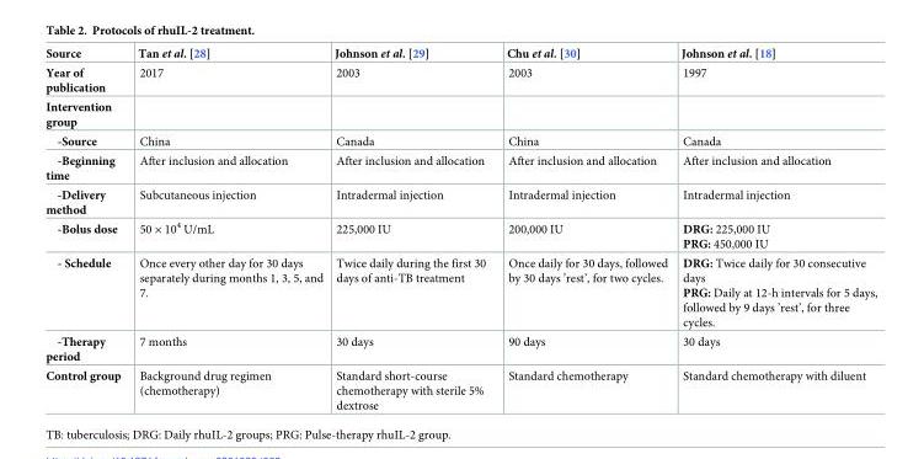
<table><thead><tr><td>Source</td><td>Tan et al. [28]</td><td>Johnson et al. [29]</td><td>Chu et al. [30]</td><td>Johnson et al. [18]</td></tr></thead><tbody><tr><td>Year of publication</td><td>2017</td><td>2003</td><td>2003</td><td>1997</td></tr><tr><td colspan="5">Intervention group</td></tr><tr><td>-Source</td><td>China</td><td>Canada</td><td>China</td><td>Canada</td></tr><tr><td>-Beginning time</td><td>After inclusion and allocation</td><td>After inclusion and allocation</td><td>After inclusion and allocation</td><td>After inclusion and allocation</td></tr><tr><td>-Delivery method</td><td>Subcutaneous injection</td><td>Intradermal injection</td><td>Intradermal injection</td><td>Intradermal injection</td></tr><tr><td>-Bolus dose</td><td>50 × 10<sup>4</sup> U/mL</td><td>225,000 IU</td><td>200,000 IU</td><td>DRG: 225,000 IU PRG: 450,000 IU</td></tr><tr><td>- Schedule</td><td>Once every other day for 30 days separately during months 1, 3, 5, and 7.</td><td>Twice daily during the first 30 days of anti-TB treatment</td><td>Once daily for 30 days, followed by 30 days ’rest’, for two cycles.</td><td>DRG: Twice daily for 30 consecutive days PRG: Daily at 12-h intervals for 5 days, followed by 9 days ’rest’, for three cycles.</td></tr><tr><td>-Therapy period</td><td>7 months</td><td>30 days</td><td>90 days</td><td>30 days</td></tr><tr><td>Control group</td><td>Background drug regimen (chemotherapy)</td><td>Standard short-course chemotherapy with sterile 5% dextrose</td><td>Standard chemotherapy</td><td>Standard chemotherapy with diluent</td></tr></tbody></table>